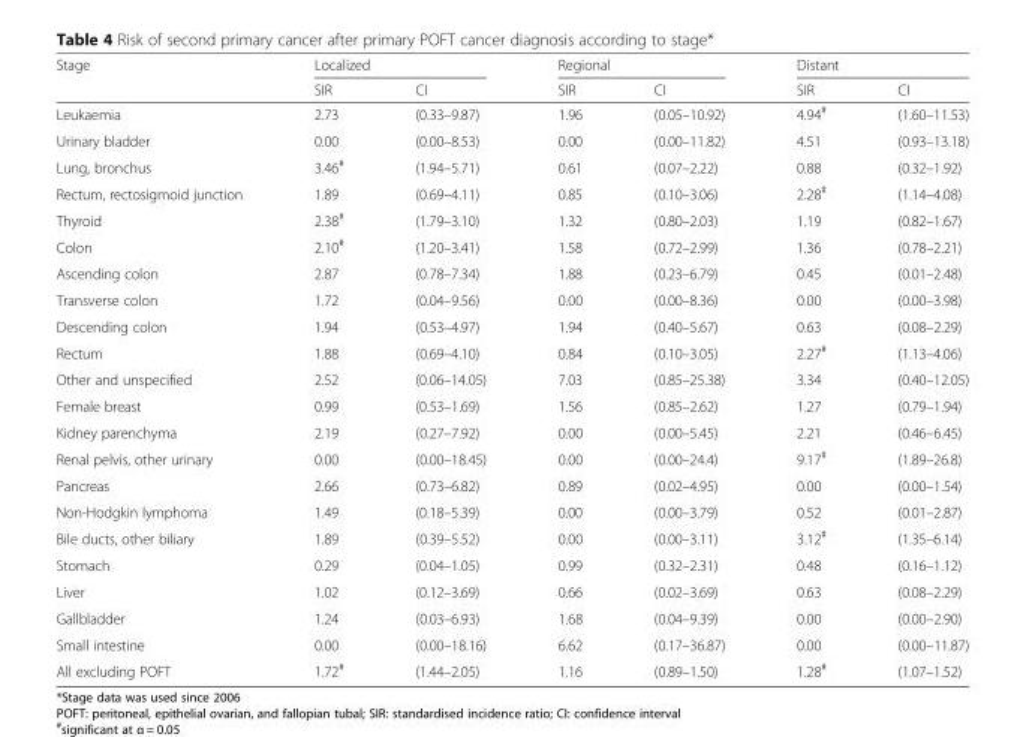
<table><thead><tr><td rowspan="2">Stage</td><td colspan="2">Localized</td><td colspan="2">Regional</td><td colspan="2">Distant</td></tr><tr><td>SIR</td><td>CI</td><td>SIR</td><td>CI</td><td>SIR</td><td>CI</td></tr></thead><tbody><tr><td>Leukaemia</td><td>2.73</td><td>(0.33–9.87)</td><td>1.96</td><td>(0.05–10.92)</td><td>4.94<sup>#</sup></td><td>(1.60–11.53)</td></tr><tr><td>Urinary bladder</td><td>0.00</td><td>(0.00–8.53)</td><td>0.00</td><td>(0.00–11.82)</td><td>4.51</td><td>(0.93–13.18)</td></tr><tr><td>Lung, bronchus</td><td>3.46<sup>#</sup></td><td>(1.94–5.71)</td><td>0.61</td><td>(0.07–2.22)</td><td>0.88</td><td>(0.32–1.92)</td></tr><tr><td>Rectum, rectosigmoid junction</td><td>1.89</td><td>(0.69–4.11)</td><td>0.85</td><td>(0.10–3.06)</td><td>2.28<sup>#</sup></td><td>(1.14–4.08)</td></tr><tr><td>Thyroid</td><td>2.38<sup>#</sup></td><td>(1.79–3.10)</td><td>1.32</td><td>(0.80–2.03)</td><td>1.19</td><td>(0.82–1.67)</td></tr><tr><td>Colon</td><td>2.10<sup>#</sup></td><td>(1.20–3.41)</td><td>1.58</td><td>(0.72–2.99)</td><td>1.36</td><td>(0.78–2.21)</td></tr><tr><td>Ascending colon</td><td>2.87</td><td>(0.78–7.34)</td><td>1.88</td><td>(0.23–6.79)</td><td>0.45</td><td>(0.01–2.48)</td></tr><tr><td>Transverse colon</td><td>1.72</td><td>(0.04–9.56)</td><td>0.00</td><td>(0.00–8.36)</td><td>0.00</td><td>(0.00–3.98)</td></tr><tr><td>Descending colon</td><td>1.94</td><td>(0.53–4.97)</td><td>1.94</td><td>(0.40–5.67)</td><td>0.63</td><td>(0.08–2.29)</td></tr><tr><td>Rectum</td><td>1.88</td><td>(0.69–4.10)</td><td>0.84</td><td>(0.10–3.05)</td><td>2.27<sup>#</sup></td><td>(1.13–4.06)</td></tr><tr><td>Other and unspecified</td><td>2.52</td><td>(0.06–14.05)</td><td>7.03</td><td>(0.85–25.38)</td><td>3.34</td><td>(0.40–12.05)</td></tr><tr><td>Female breast</td><td>0.99</td><td>(0.53–1.69)</td><td>1.56</td><td>(0.85–2.62)</td><td>1.27</td><td>(0.79–1.94)</td></tr><tr><td>Kidney parenchyma</td><td>2.19</td><td>(0.27–7.92)</td><td>0.00</td><td>(0.00–5.45)</td><td>2.21</td><td>(0.46–6.45)</td></tr><tr><td>Renal pelvis, other urinary</td><td>0.00</td><td>(0.00–18.45)</td><td>0.00</td><td>(0.00–24.4)</td><td>9.17<sup>#</sup></td><td>(1.89–26.8)</td></tr><tr><td>Pancreas</td><td>2.66</td><td>(0.73–6.82)</td><td>0.89</td><td>(0.02–4.95)</td><td>0.00</td><td>(0.00–1.54)</td></tr><tr><td>Non-Hodgkin lymphoma</td><td>1.49</td><td>(0.18–5.39)</td><td>0.00</td><td>(0.00–3.79)</td><td>0.52</td><td>(0.01–2.87)</td></tr><tr><td>Bile ducts, other biliary</td><td>1.89</td><td>(0.39–5.52)</td><td>0.00</td><td>(0.00–3.11)</td><td>3.12<sup>#</sup></td><td>(1.35–6.14)</td></tr><tr><td>Stomach</td><td>0.29</td><td>(0.04–1.05)</td><td>0.99</td><td>(0.32–2.31)</td><td>0.48</td><td>(0.16–1.12)</td></tr><tr><td>Liver</td><td>1.02</td><td>(0.12–3.69)</td><td>0.66</td><td>(0.02–3.69)</td><td>0.63</td><td>(0.08–2.29)</td></tr><tr><td>Gallbladder</td><td>1.24</td><td>(0.03–6.93)</td><td>1.68</td><td>(0.04–9.39)</td><td>0.00</td><td>(0.00–2.90)</td></tr><tr><td>Small intestine</td><td>0.00</td><td>(0.00–18.16)</td><td>6.62</td><td>(0.17–36.87)</td><td>0.00</td><td>(0.00–11.87)</td></tr><tr><td>All excluding POFT</td><td>1.72<sup>#</sup></td><td>(1.44–2.05)</td><td>1.16</td><td>(0.89–1.50)</td><td>1.28<sup>#</sup></td><td>(1.07–1.52)</td></tr></tbody></table>